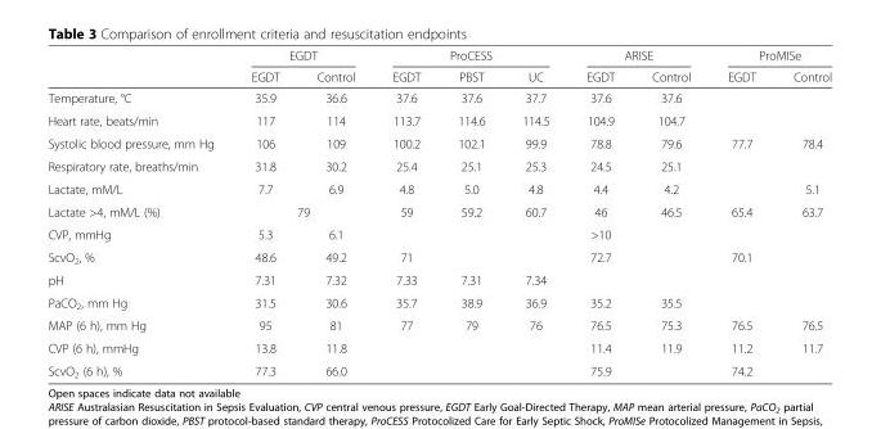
<table><thead><tr><td rowspan="2"></td><td colspan="2">EGDT</td><td colspan="3">ProCESS</td><td colspan="2">ARISE</td><td colspan="2">ProMISe</td></tr><tr><td>EGDT</td><td>Control</td><td>EGDT</td><td>PBST</td><td>UC</td><td>EGDT</td><td>Control</td><td>EGDT</td><td>Control</td></tr></thead><tbody><tr><td>Temperature, °C</td><td>35.9</td><td>36.6</td><td>37.6</td><td>37.6</td><td>37.7</td><td>37.6</td><td>37.6</td><td></td><td></td></tr><tr><td>Heart rate, beats/min</td><td>117</td><td>114</td><td>113.7</td><td>114.6</td><td>114.5</td><td>104.9</td><td>104.7</td><td></td><td></td></tr><tr><td>Systolic blood pressure, mm Hg</td><td>106</td><td>109</td><td>100.2</td><td>102.1</td><td>99.9</td><td>78.8</td><td>79.6</td><td>77.7</td><td>78.4</td></tr><tr><td>Respiratory rate, breaths/min</td><td>31.8</td><td>30.2</td><td>25.4</td><td>25.1</td><td>25.3</td><td>24.5</td><td>25.1</td><td></td><td></td></tr><tr><td>Lactate, mM/L</td><td>7.7</td><td>6.9</td><td>4.8</td><td>5.0</td><td>4.8</td><td>4.4</td><td>4.2</td><td></td><td>5.1</td></tr><tr><td>Lactate &gt;4, mM/L (%)</td><td colspan="2">79</td><td>59</td><td>59.2</td><td>60.7</td><td>46</td><td>46.5</td><td>65.4</td><td>63.7</td></tr><tr><td>CVP, mmHg</td><td>5.3</td><td>6.1</td><td></td><td></td><td></td><td>&gt;10</td><td></td><td></td><td></td></tr><tr><td>ScvO<sub>2</sub>, %</td><td>48.6</td><td>49.2</td><td>71</td><td></td><td></td><td>72.7</td><td></td><td>70.1</td><td></td></tr><tr><td>pH</td><td>7.31</td><td>7.32</td><td>7.33</td><td>7.31</td><td>7.34</td><td></td><td></td><td></td><td></td></tr><tr><td>PaCO<sub>2</sub>, mm Hg</td><td>31.5</td><td>30.6</td><td>35.7</td><td>38.9</td><td>36.9</td><td>35.2</td><td>35.5</td><td></td><td></td></tr><tr><td>MAP (6 h), mm Hg</td><td>95</td><td>81</td><td>77</td><td>79</td><td>76</td><td>76.5</td><td>75.3</td><td>76.5</td><td>76.5</td></tr><tr><td>CVP (6 h), mmHg</td><td>13.8</td><td>11.8</td><td></td><td></td><td></td><td>11.4</td><td>11.9</td><td>11.2</td><td>11.7</td></tr><tr><td>ScvO<sub>2</sub> (6 h), %</td><td>77.3</td><td>66.0</td><td></td><td></td><td></td><td>75.9</td><td></td><td>74.2</td><td></td></tr></tbody></table>